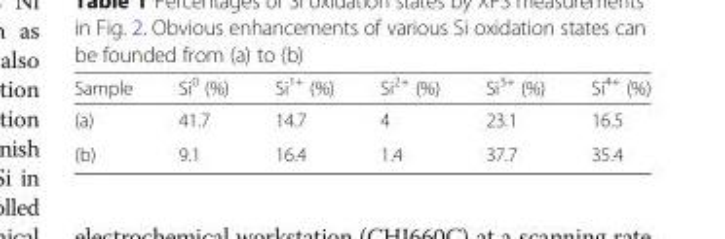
<table><thead><tr><td>Sample</td><td>Si<sup>0</sup> (%)</td><td>Si<sup>1+</sup> (%)</td><td>Si<sup>2+</sup> (%)</td><td>Si<sup>3+</sup> (%)</td><td>Si<sup>4+</sup> (%)</td></tr></thead><tbody><tr><td>(a)</td><td>41.7</td><td>14.7</td><td>4</td><td>23.1</td><td>16.5</td></tr><tr><td>(b)</td><td>9.1</td><td>16.4</td><td>1.4</td><td>37.7</td><td>35.4</td></tr></tbody></table>